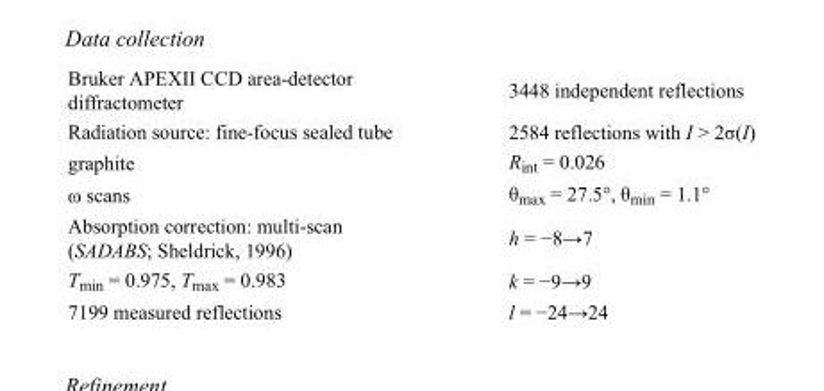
<table><tbody><tr><td>Bruker APEXII CCD area-detector diffractometer</td><td>3448 independent reflections</td></tr><tr><td>Radiation source: fine-focus sealed tube</td><td>2584 reflections with I &gt; 2σ(I)</td></tr><tr><td>graphite</td><td>R<sub>int</sub> = 0.026</td></tr><tr><td>ω scans</td><td>θ<sub>max</sub> = 27.5°, θ<sub>min</sub> = 1.1°</td></tr><tr><td>Absorption correction: multi-scan (SADABS; Sheldrick, 1996)</td><td>h = −8→7</td></tr><tr><td>T<sub>min</sub> = 0.975, T<sub>max</sub> = 0.983</td><td>k = −9→9</td></tr><tr><td>7199 measured reflections</td><td>l = −24→24</td></tr></tbody></table>